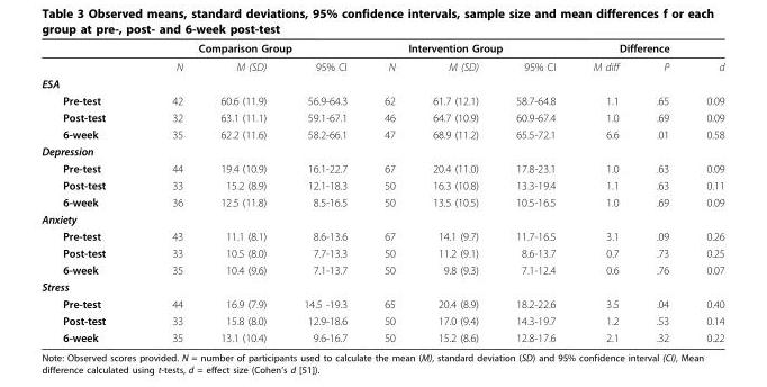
<table><thead><tr><td rowspan="2"></td><td colspan="3">Comparison Group</td><td colspan="3">Intervention Group</td><td colspan="3">Difference</td></tr><tr><td>N</td><td>M (SD)</td><td>95% CI</td><td>N</td><td>M (SD)</td><td>95% CI</td><td>M diff</td><td>P</td><td>d</td></tr></thead><tbody><tr><td colspan="10">ESA</td></tr><tr><td>Pre-test</td><td>42</td><td>60.6 (11.9)</td><td>56.9-64.3</td><td>62</td><td>61.7 (12.1)</td><td>58.7-64.8</td><td>1.1</td><td>.65</td><td>0.09</td></tr><tr><td>Post-test</td><td>32</td><td>63.1 (11.1)</td><td>59.1-67.1</td><td>46</td><td>64.7 (10.9)</td><td>60.9-67.4</td><td>1.0</td><td>.69</td><td>0.09</td></tr><tr><td>6-week</td><td>35</td><td>62.2 (11.6)</td><td>58.2-66.1</td><td>47</td><td>68.9 (11.2)</td><td>65.5-72.1</td><td>6.6</td><td>.01</td><td>0.58</td></tr><tr><td colspan="10">Depression</td></tr><tr><td>Pre-test</td><td>44</td><td>19.4 (10.9)</td><td>16.1-22.7</td><td>67</td><td>20.4 (11.0)</td><td>17.8-23.1</td><td>1.0</td><td>.63</td><td>0.09</td></tr><tr><td>Post-test</td><td>33</td><td>15.2 (8.9)</td><td>12.1-18.3</td><td>50</td><td>16.3 (10.8)</td><td>13.3-19.4</td><td>1.1</td><td>.63</td><td>0.11</td></tr><tr><td>6-week</td><td>36</td><td>12.5 (11.8)</td><td>8.5-16.5</td><td>50</td><td>13.5 (10.5)</td><td>10.5-16.5</td><td>1.0</td><td>.69</td><td>0.09</td></tr><tr><td colspan="10">Anxiety</td></tr><tr><td>Pre-test</td><td>43</td><td>11.1 (8.1)</td><td>8.6-13.6</td><td>67</td><td>14.1 (9.7)</td><td>11.7-16.5</td><td>3.1</td><td>.09</td><td>0.26</td></tr><tr><td>Post-test</td><td>33</td><td>10.5 (8.0)</td><td>7.7-13.3</td><td>50</td><td>11.2 (9.1)</td><td>8.6-13.7</td><td>0.7</td><td>.73</td><td>0.25</td></tr><tr><td>6-week</td><td>35</td><td>10.4 (9.6)</td><td>7.1-13.7</td><td>50</td><td>9.8 (9.3)</td><td>7.1-12.4</td><td>0.6</td><td>.76</td><td>0.07</td></tr><tr><td colspan="10">Stress</td></tr><tr><td>Pre-test</td><td>44</td><td>16.9 (7.9)</td><td>14.5 -19.3</td><td>65</td><td>20.4 (8.9)</td><td>18.2-22.6</td><td>3.5</td><td>.04</td><td>0.40</td></tr><tr><td>Post-test</td><td>33</td><td>15.8 (8.0)</td><td>12.9-18.6</td><td>50</td><td>17.0 (9.4)</td><td>14.3-19.7</td><td>1.2</td><td>.53</td><td>0.14</td></tr><tr><td>6-week</td><td>35</td><td>13.1 (10.4)</td><td>9.6-16.7</td><td>50</td><td>15.2 (8.6)</td><td>12.8-17.6</td><td>2.1</td><td>.32</td><td>0.22</td></tr></tbody></table>